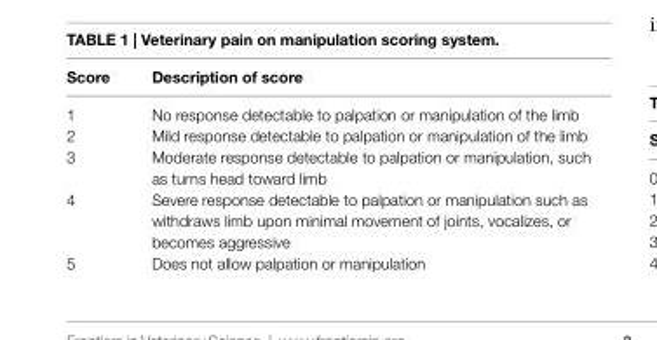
<table><thead><tr><td>score</td><td>Description of score</td></tr></thead><tbody><tr><td>1</td><td>No response detectable to palpation or manipulation of the limb</td></tr><tr><td>2</td><td>Mild response detectable to palpation or manipulation of the limb</td></tr><tr><td>3</td><td>Moderate response detectable to palpation or manipulation, such as turns head toward limb</td></tr><tr><td>4</td><td>Severe response detectable to palpation or manipulation such as withdraws limb upon minimal movement of joints, vocalizes, or becomes aggressive</td></tr><tr><td>5</td><td>Does not allow palpation or manipulation</td></tr></tbody></table>